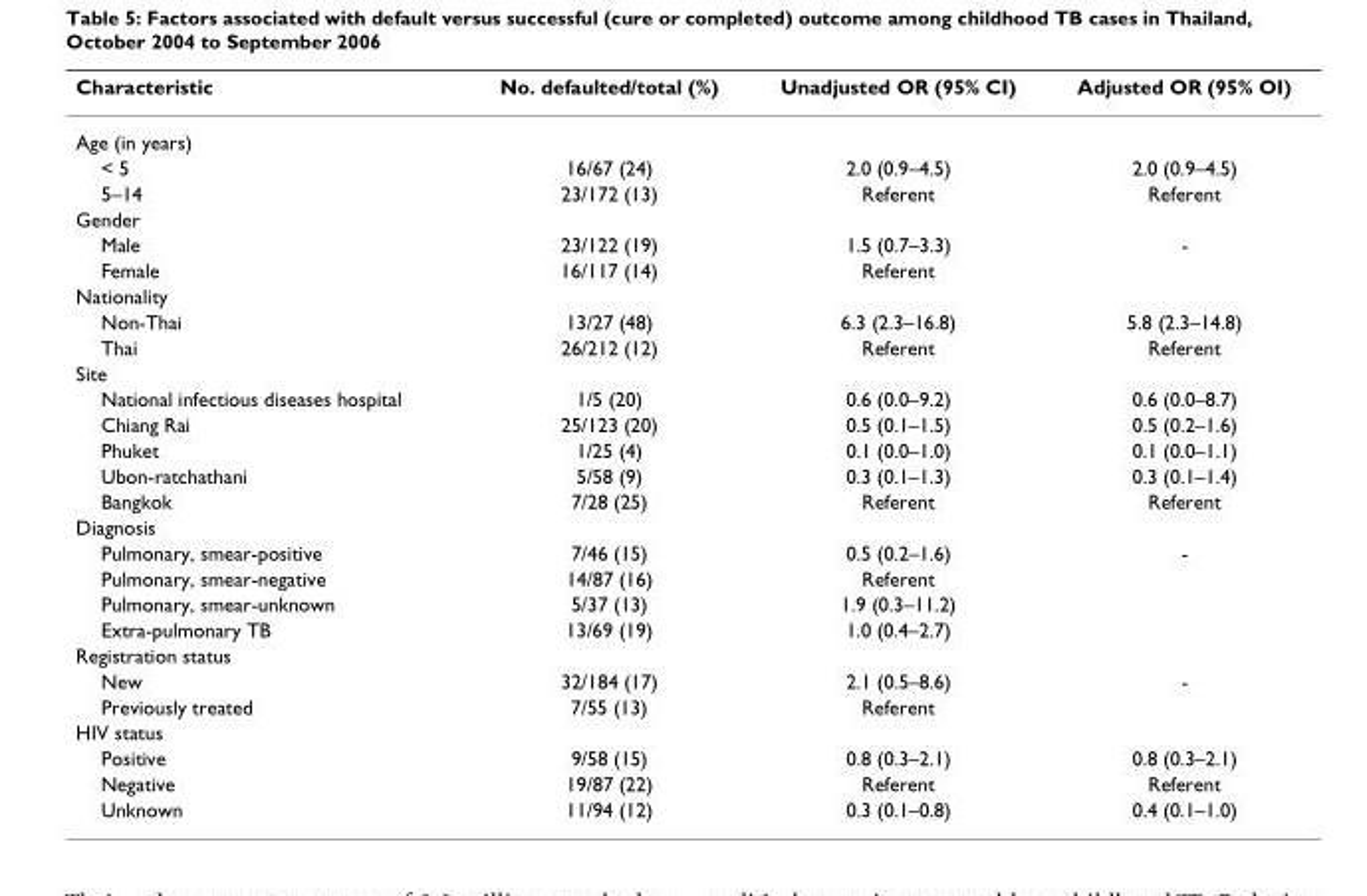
<table><thead><tr><td>Characteristic</td><td>No. defaulted/total (%)</td><td>Unadjusted OR (95% CI)</td><td>Adjusted OR (95% OI)</td></tr></thead><tbody><tr><td colspan="4">Age (in years)</td></tr><tr><td>&lt; 5</td><td>16/67 (24)</td><td>2.0 (0.9–4.5)</td><td>2.0 (0.9–4.5)</td></tr><tr><td>5–14</td><td>23/172 (13)</td><td>Referent</td><td>Referent</td></tr><tr><td colspan="4">Gender</td></tr><tr><td>Male</td><td>23/122 (19)</td><td>1.5 (0.7–3.3)</td><td>-</td></tr><tr><td>Female</td><td>16/117 (14)</td><td>Referent</td><td></td></tr><tr><td colspan="4">Nationality</td></tr><tr><td>Non-Thai</td><td>13/27 (48)</td><td>6.3 (2.3–16.8)</td><td>5.8 (2.3–14.8)</td></tr><tr><td>Thai</td><td>26/212 (12)</td><td>Referent</td><td>Referent</td></tr><tr><td colspan="4">Site</td></tr><tr><td>National infectious diseases hospital</td><td>1/5 (20)</td><td>0.6 (0.0–9.2)</td><td>0.6 (0.0–8.7)</td></tr><tr><td>Chiang Rai</td><td>25/123 (20)</td><td>0.5 (0.1–1.5)</td><td>0.5 (0.2–1.6)</td></tr><tr><td>Phuket</td><td>1/25 (4)</td><td>0.1 (0.0–1.0)</td><td>0.1 (0.0–1.1)</td></tr><tr><td>Ubon-ratchathani</td><td>5/58 (9)</td><td>0.3 (0.1–1.3)</td><td>0.3 (0.1–1.4)</td></tr><tr><td>Bangkok</td><td>7/28 (25)</td><td>Referent</td><td>Referent</td></tr><tr><td colspan="4">Diagnosis</td></tr><tr><td>Pulmonary, smear-positive</td><td>7/46 (15)</td><td>0.5 (0.2–1.6)</td><td>-</td></tr><tr><td>Pulmonary, smear-negative</td><td>14/87 (16)</td><td>Referent</td><td></td></tr><tr><td>Pulmonary, smear-unknown</td><td>5/37 (13)</td><td>1.9 (0.3–11.2)</td><td></td></tr><tr><td>Extra-pulmonary TB</td><td>13/69 (19)</td><td>1.0 (0.4–2.7)</td><td></td></tr><tr><td colspan="4">Registration status</td></tr><tr><td>New</td><td>32/184 (17)</td><td>2.1 (0.5–8.6)</td><td>-</td></tr><tr><td>Previously treated</td><td>7/55 (13)</td><td>Referent</td><td></td></tr><tr><td colspan="4">HIV status</td></tr><tr><td>Positive</td><td>9/58 (15)</td><td>0.8 (0.3–2.1)</td><td>0.8 (0.3–2.1)</td></tr><tr><td>Negative</td><td>19/87 (22)</td><td>Referent</td><td>Referent</td></tr><tr><td>Unknown</td><td>11/94 (12)</td><td>0.3 (0.1–0.8)</td><td>0.4 (0.1–1.0)</td></tr></tbody></table>